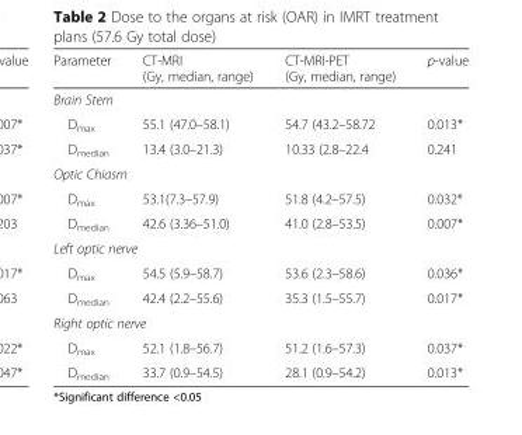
<table><thead><tr><td>Parameter</td><td>CT-MRI (Gy, median, range)</td><td>CT-MRI-PET (Gy, median, range)</td><td>p-value</td></tr></thead><tbody><tr><td colspan="4">Brain Stem</td></tr><tr><td>D<sub>max</sub></td><td>55.1 (47.0–58.1)</td><td>54.7 (43.2–58.72</td><td>0.013*</td></tr><tr><td>D<sub>median</sub></td><td>13.4 (3.0–21.3)</td><td>10.33 (2.8–22.4</td><td>0.241</td></tr><tr><td colspan="4">Optic Chiasm</td></tr><tr><td>D<sub>max</sub></td><td>53.1(7.3–57.9)</td><td>51.8 (4.2–57.5)</td><td>0.032*</td></tr><tr><td>D<sub>median</sub></td><td>42.6 (3.36–51.0)</td><td>41.0 (2.8–53.5)</td><td>0.007*</td></tr><tr><td colspan="4">Left optic nerve</td></tr><tr><td>D<sub>max</sub></td><td>54.5 (5.9–58.7)</td><td>53.6 (2.3–58.6)</td><td>0.036*</td></tr><tr><td>D<sub>median</sub></td><td>42.4 (2.2–55.6)</td><td>35.3 (1.5–55.7)</td><td>0.017*</td></tr><tr><td colspan="4">Right optic nerve</td></tr><tr><td>D<sub>max</sub></td><td>52.1 (1.8–56.7)</td><td>51.2 (1.6–57.3)</td><td>0.037*</td></tr><tr><td>D<sub>median</sub></td><td>33.7 (0.9–54.5)</td><td>28.1 (0.9–54.2)</td><td>0.013*</td></tr></tbody></table>